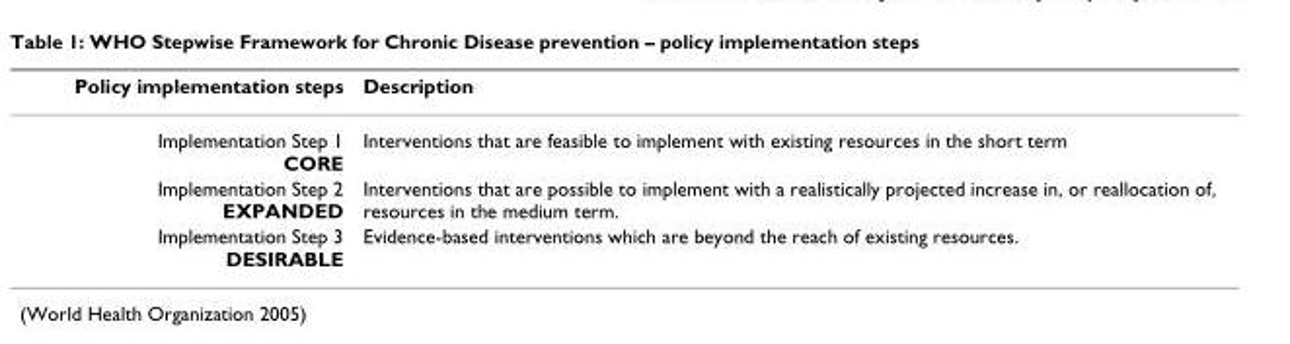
<table><thead><tr><td>Policy implementation steps</td><td>Description</td></tr></thead><tbody><tr><td>Implementation Step 1 CORE</td><td>Interventions that are feasible to implement with existing resources in the short term</td></tr><tr><td>Implementation Step 2 EXPANDED</td><td>Interventions that are possible to implement with a realistically projected increase in, or reallocation of, resources in the medium term.</td></tr><tr><td>Implementation Step 3 DESIRABLE</td><td>Evidence-based interventions which are beyond the reach of existing resources.</td></tr></tbody></table>